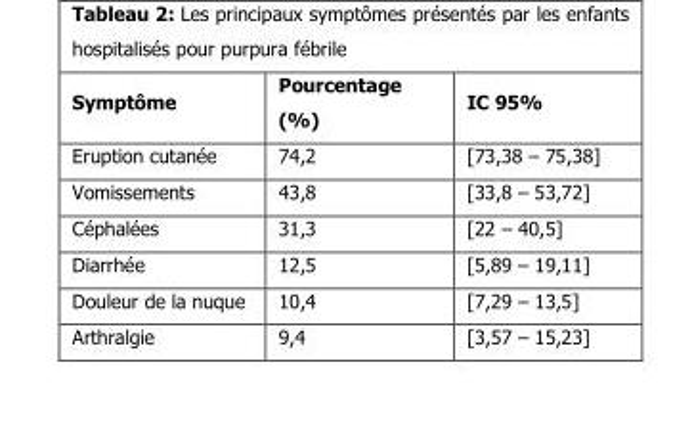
<table><thead><tr><td>Symptôme</td><td>Pourcentage (%)</td><td>IC 95%</td></tr></thead><tbody><tr><td>Eruption cutanée</td><td>74,2</td><td>[73,38 – 75,38]</td></tr><tr><td>Vomissements</td><td>43,8</td><td>[33,8 – 53,72]</td></tr><tr><td>Céphalées</td><td>31,3</td><td>[22 – 40,5]</td></tr><tr><td>Diarrhée</td><td>12,5</td><td>[5,89 – 19,11]</td></tr><tr><td>Douleur de la nuque</td><td>10,4</td><td>[7,29 – 13,5]</td></tr><tr><td>Arthralgie</td><td>9,4</td><td>[3,57 – 15,23]</td></tr></tbody></table>